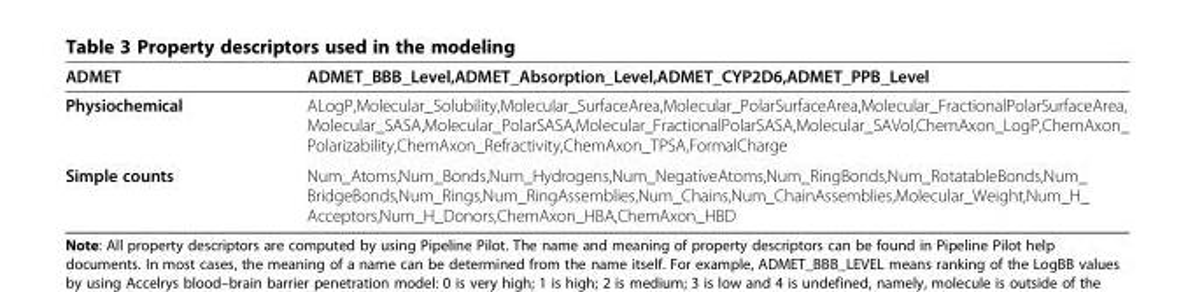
<table><thead><tr><td>ADMET</td><td>ADMET_BBB_Level,ADMET_Absorption_Level,ADMET_CYP2D6,ADMET_PPB_Level</td></tr></thead><tbody><tr><td>Physiochemical</td><td>ALogP,Molecular_Solubility,Molecular_SurfaceArea,Molecular_PolarSurfaceArea,Molecular_FractionalPolarSurfaceArea, Molecular_SASA,Molecular_PolarSASA,Molecular_FractionalPolarSASA,Molecular_SAVol,ChemAxon_LogP,ChemAxon_ Polarizability,ChemAxon_Refractivity,ChemAxon_TPSA,FormalCharge</td></tr><tr><td>Simple counts</td><td>Num_Atoms,Num_Bonds,Num_Hydrogens,Num_NegativeAtoms,Num_RingBonds,Num_RotatableBonds,Num_ BridgeBonds,Num_Rings,Num_RingAssemblies,Num_Chains,Num_ChainAssemblies,Molecular_Weight,Num_H_ Acceptors,Num_H_Donors,ChemAxon_HBA,ChemAxon_HBD</td></tr></tbody></table>